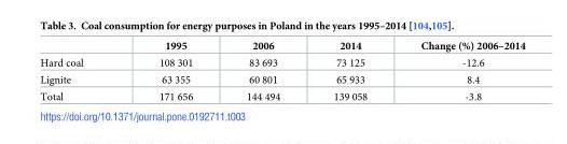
<table><thead><tr><td></td><td>1995</td><td>2006</td><td>2014</td><td>Change (%) 2006–2014</td></tr></thead><tbody><tr><td>Hard coal</td><td>108 301</td><td>83 693</td><td>73 125</td><td>-12.6</td></tr><tr><td>Lignite</td><td>63 355</td><td>60 801</td><td>65 933</td><td>8.4</td></tr><tr><td>Total</td><td>171 656</td><td>144 494</td><td>139 058</td><td>-3.8</td></tr></tbody></table>